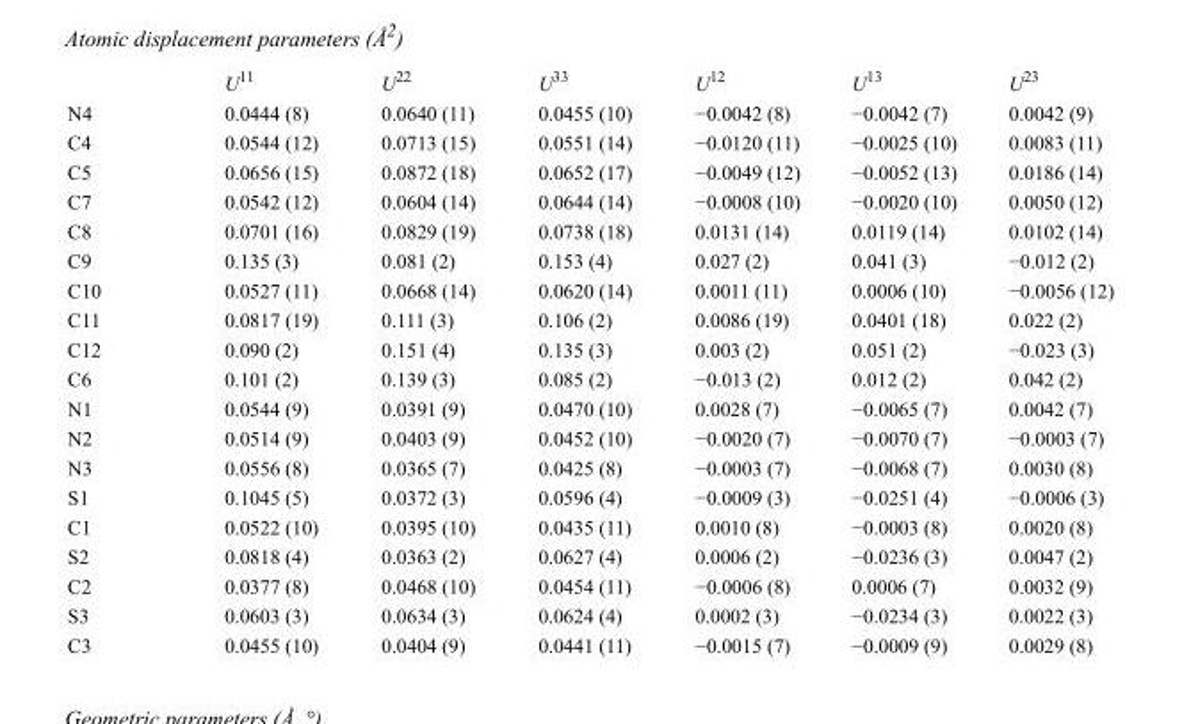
<table><thead><tr><td></td><td>U<sup>11</sup></td><td>U<sup>22</sup></td><td>U<sup>33</sup></td><td>U<sup>12</sup></td><td>U<sup>13</sup></td><td>U<sup>23</sup></td></tr></thead><tbody><tr><td>N4</td><td>0.0444 (8)</td><td>0.0640 (11)</td><td>0.0455 (10)</td><td>−0.0042 (8)</td><td>−0.0042 (7)</td><td>0.0042 (9)</td></tr><tr><td>C4</td><td>0.0544 (12)</td><td>0.0713 (15)</td><td>0.0551 (14)</td><td>−0.0120 (11)</td><td>−0.0025 (10)</td><td>0.0083 (11)</td></tr><tr><td>C5</td><td>0.0656 (15)</td><td>0.0872 (18)</td><td>0.0652 (17)</td><td>−0.0049 (12)</td><td>−0.0052 (13)</td><td>0.0186 (14)</td></tr><tr><td>C7</td><td>0.0542 (12)</td><td>0.0604 (14)</td><td>0.0644 (14)</td><td>−0.0008 (10)</td><td>−0.0020 (10)</td><td>0.0050 (12)</td></tr><tr><td>C8</td><td>0.0701 (16)</td><td>0.0829 (19)</td><td>0.0738 (18)</td><td>0.0131 (14)</td><td>0.0119 (14)</td><td>0.0102 (14)</td></tr><tr><td>C9</td><td>0.135 (3)</td><td>0.081 (2)</td><td>0.153 (4)</td><td>0.027 (2)</td><td>0.041 (3)</td><td>−0.012 (2)</td></tr><tr><td>C10</td><td>0.0527 (11)</td><td>0.0668 (14)</td><td>0.0620 (14)</td><td>0.0011 (11)</td><td>0.0006 (10)</td><td>−0.0056 (12)</td></tr><tr><td>C11</td><td>0.0817 (19)</td><td>0.111 (3)</td><td>0.106 (2)</td><td>0.0086 (19)</td><td>0.0401 (18)</td><td>0.022 (2)</td></tr><tr><td>C12</td><td>0.090 (2)</td><td>0.151 (4)</td><td>0.135 (3)</td><td>0.003 (2)</td><td>0.051 (2)</td><td>−0.023 (3)</td></tr><tr><td>C6</td><td>0.101 (2)</td><td>0.139 (3)</td><td>0.085 (2)</td><td>−0.013 (2)</td><td>0.012 (2)</td><td>0.042 (2)</td></tr><tr><td>N1</td><td>0.0544 (9)</td><td>0.0391 (9)</td><td>0.0470 (10)</td><td>0.0028 (7)</td><td>−0.0065 (7)</td><td>0.0042 (7)</td></tr><tr><td>N2</td><td>0.0514 (9)</td><td>0.0403 (9)</td><td>0.0452 (10)</td><td>−0.0020 (7)</td><td>−0.0070 (7)</td><td>−0.0003 (7)</td></tr><tr><td>N3</td><td>0.0556 (8)</td><td>0.0365 (7)</td><td>0.0425 (8)</td><td>−0.0003 (7)</td><td>−0.0068 (7)</td><td>0.0030 (8)</td></tr><tr><td>S1</td><td>0.1045 (5)</td><td>0.0372 (3)</td><td>0.0596 (4)</td><td>−0.0009 (3)</td><td>−0.0251 (4)</td><td>−0.0006 (3)</td></tr><tr><td>C1</td><td>0.0522 (10)</td><td>0.0395 (10)</td><td>0.0435 (11)</td><td>0.0010 (8)</td><td>−0.0003 (8)</td><td>0.0020 (8)</td></tr><tr><td>S2</td><td>0.0818 (4)</td><td>0.0363 (2)</td><td>0.0627 (4)</td><td>0.0006 (2)</td><td>−0.0236 (3)</td><td>0.0047 (2)</td></tr><tr><td>C2</td><td>0.0377 (8)</td><td>0.0468 (10)</td><td>0.0454 (11)</td><td>−0.0006 (8)</td><td>0.0006 (7)</td><td>0.0032 (9)</td></tr><tr><td>S3</td><td>0.0603 (3)</td><td>0.0634 (3)</td><td>0.0624 (4)</td><td>0.0002 (3)</td><td>−0.0234 (3)</td><td>0.0022 (3)</td></tr><tr><td>C3</td><td>0.0455 (10)</td><td>0.0404 (9)</td><td>0.0441 (11)</td><td>−0.0015 (7)</td><td>−0.0009 (9)</td><td>0.0029 (8)</td></tr></tbody></table>